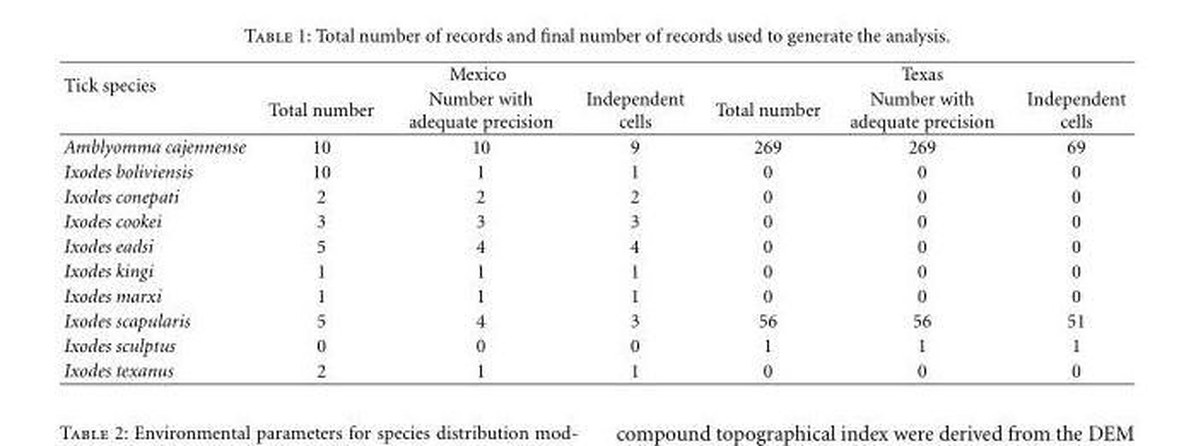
<table><thead><tr><td rowspan="2">Tick species</td><td colspan="3">Mexico</td><td colspan="3">Texas</td></tr><tr><td>Total number</td><td>Number with adequate precision</td><td>Independent cells</td><td>Total number</td><td>Number with adequate precision</td><td>Independent cells</td></tr></thead><tbody><tr><td>Amblyomma cajennense</td><td>10</td><td>10</td><td>9</td><td>269</td><td>269</td><td>69</td></tr><tr><td>Ixodes boliviensis</td><td>10</td><td>1</td><td>1</td><td>0</td><td>0</td><td>0</td></tr><tr><td>Ixodes conepati</td><td>2</td><td>2</td><td>2</td><td>0</td><td>0</td><td>0</td></tr><tr><td>Ixodes cookei</td><td>3</td><td>3</td><td>3</td><td>0</td><td>0</td><td>0</td></tr><tr><td>Ixodes eadsi</td><td>5</td><td>4</td><td>4</td><td>0</td><td>0</td><td>0</td></tr><tr><td>Ixodes kingi</td><td>1</td><td>1</td><td>1</td><td>0</td><td>0</td><td>0</td></tr><tr><td>Ixodes marxi</td><td>1</td><td>1</td><td>1</td><td>0</td><td>0</td><td>0</td></tr><tr><td>Ixodes scapularis</td><td>5</td><td>4</td><td>3</td><td>56</td><td>56</td><td>51</td></tr><tr><td>Ixodes sculptus</td><td>0</td><td>0</td><td>0</td><td>1</td><td>1</td><td>1</td></tr><tr><td>Ixodes texanus</td><td>2</td><td>1</td><td>1</td><td>0</td><td>0</td><td>0</td></tr></tbody></table>